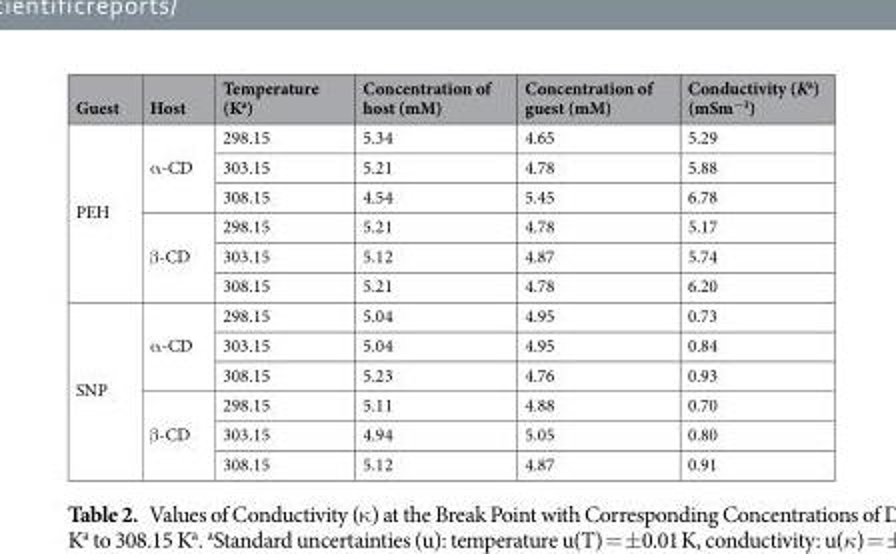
<table><thead><tr><td>Guest</td><td>Host</td><td>Temperature (K<sup>a</sup>)</td><td>Concentration of host (mM)</td><td>Concentration of guest (mM)</td><td>Conductivity (K<sup>a</sup>) (mSm<sup>−1</sup>)</td></tr></thead><tbody><tr><td rowspan="6">PEH</td><td rowspan="3">α-CD</td><td>298.15</td><td>5.34</td><td>4.65</td><td>5.29</td></tr><tr><td>303.15</td><td>5.21</td><td>4.78</td><td>5.88</td></tr><tr><td>308.15</td><td>4.54</td><td>5.45</td><td>6.78</td></tr><tr><td rowspan="3">β-CD</td><td>298.15</td><td>5.21</td><td>4.78</td><td>5.17</td></tr><tr><td>303.15</td><td>5.12</td><td>4.87</td><td>5.74</td></tr><tr><td>308.15</td><td>5.21</td><td>4.78</td><td>6.20</td></tr><tr><td rowspan="6">SNP</td><td rowspan="3">α-CD</td><td>298.15</td><td>5.04</td><td>4.95</td><td>0.73</td></tr><tr><td>303.15</td><td>5.04</td><td>4.95</td><td>0.84</td></tr><tr><td>308.15</td><td>5.23</td><td>4.76</td><td>0.93</td></tr><tr><td rowspan="3">β-CD</td><td>298.15</td><td>5.11</td><td>4.88</td><td>0.70</td></tr><tr><td>303.15</td><td>4.94</td><td>5.05</td><td>0.80</td></tr><tr><td>308.15</td><td>5.12</td><td>4.87</td><td>0.91</td></tr></tbody></table>